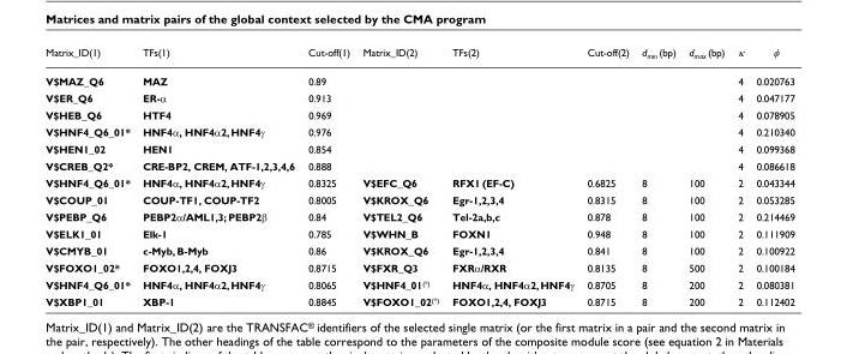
<table><thead><tr><td>Matrix_ID(1)</td><td>TFs(1)</td><td>Cut-off(1)</td><td>Matrix_ID(2)</td><td>TFs(2)</td><td>Cut-off(2)</td><td>d<sub>min</sub> (bp)</td><td>d<sub>max</sub> (bp)</td><td>κ</td><td>φ</td></tr></thead><tbody><tr><td>V$MAZ_Q6</td><td>MAZ</td><td>0.89</td><td></td><td></td><td></td><td></td><td></td><td>4</td><td>0.020763</td></tr><tr><td>V$ER_Q6</td><td>ER-α</td><td>0.913</td><td></td><td></td><td></td><td></td><td></td><td>4</td><td>0.047177</td></tr><tr><td>V$HEB_Q6</td><td>HTF4</td><td>0.969</td><td></td><td></td><td></td><td></td><td></td><td>4</td><td>0.078905</td></tr><tr><td>V$HNF4_Q6_01*</td><td>HNF4α, HNF4α2, HNF4γ</td><td>0.976</td><td></td><td></td><td></td><td></td><td></td><td>4</td><td>0.210340</td></tr><tr><td>V$HEN1_02</td><td>HEN1</td><td>0.854</td><td></td><td></td><td></td><td></td><td></td><td>4</td><td>0.099368</td></tr><tr><td>V$CREB_Q2*</td><td>CRE-BP2, CREM, ATF-1,2,3,4,6</td><td>0.888</td><td></td><td></td><td></td><td></td><td></td><td>4</td><td>0.086618</td></tr><tr><td>V$HNF4_Q6_01*</td><td>HNF4α, HNF4α2, HNF4γ</td><td>0.8325</td><td>V$EFC_Q6</td><td>RFX1 (EF-C)</td><td>0.6825</td><td>8</td><td>100</td><td>2</td><td>0.043344</td></tr><tr><td>V$COUP_01</td><td>COUP-TF1, COUP-TF2</td><td>0.8005</td><td>V$KROX_Q6</td><td>Egr-1,2,3,4</td><td>0.8315</td><td>8</td><td>100</td><td>2</td><td>0.053285</td></tr><tr><td>V$PEBP_Q6</td><td>PEBP2α/AML1,3; PEBP2β</td><td>0.84</td><td>V$TEL2_Q6</td><td>Tel-2a,b,c</td><td>0.878</td><td>8</td><td>100</td><td>2</td><td>0.214469</td></tr><tr><td>V$ELK1_01</td><td>Elk-1</td><td>0.785</td><td>V$WHN_B</td><td>FOXN1</td><td>0.948</td><td>8</td><td>100</td><td>2</td><td>0.111909</td></tr><tr><td>V$CMYB_01</td><td>c-Myb, B-Myb</td><td>0.86</td><td>V$KROX_Q6</td><td>Egr-1,2,3,4</td><td>0.841</td><td>8</td><td>100</td><td>2</td><td>0.100922</td></tr><tr><td>V$FOXO1_02*</td><td>FOXO1,2,4, FOXJ3</td><td>0.8715</td><td>V$FXR_Q3</td><td>FXRα/RXR</td><td>0.8135</td><td>8</td><td>500</td><td>2</td><td>0.100184</td></tr><tr><td>V$HNF4_Q6_01*</td><td>HNF4α, HNF4α2, HNF4γ</td><td>0.8065</td><td>V$HNF4_01<sup>(*)</sup></td><td>HNF4α, HNF4α2, HNF4γ</td><td>0.8705</td><td>8</td><td>200</td><td>2</td><td>0.080381</td></tr><tr><td>V$XBP1_01</td><td>XBP-1</td><td>0.8845</td><td>V$FOXO1_02<sup>(*)</sup></td><td>FOXO1,2,4, FOXJ3</td><td>0.8715</td><td>8</td><td>200</td><td>2</td><td>0.112402</td></tr></tbody></table>